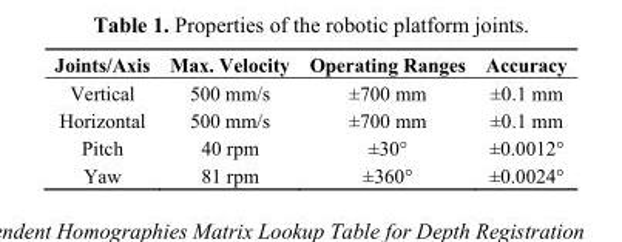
<table><thead><tr><td>Joints/Axis</td><td>Max. Velocity</td><td>Operating Ranges</td><td>Accuracy</td></tr></thead><tbody><tr><td>Vertical</td><td>500 mm/s</td><td>±700 mm</td><td>±0.1 mm</td></tr><tr><td>Horizontal</td><td>500 mm/s</td><td>±700 mm</td><td>±0.1 mm</td></tr><tr><td>Pitch</td><td>40 rpm</td><td>±30°</td><td>±0.0012°</td></tr><tr><td>Yaw</td><td>81 rpm</td><td>±360°</td><td>±0.0024°</td></tr></tbody></table>